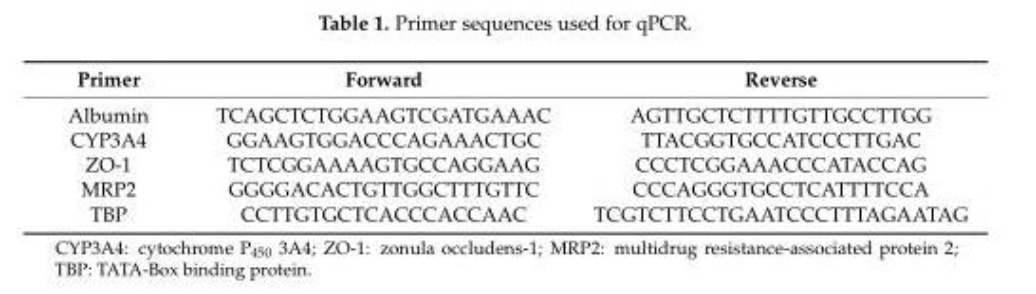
<table><thead><tr><td>Primer</td><td>Forward</td><td>Reverse</td></tr></thead><tbody><tr><td>Albumin</td><td>TCAGCTCTGGAAGTCGATGAAAC</td><td>AGTTGCTCTTTTGTTGCCTTGG</td></tr><tr><td>CYP3A4</td><td>GGAAGTGGACCCAGAAACTGC</td><td>TTACGGTGCCATCCCTTGAC</td></tr><tr><td>ZO-1</td><td>TCTCGGAAAAGTGCCAGGAAG</td><td>CCCTCGGAAACCCATACCAG</td></tr><tr><td>MRP2</td><td>GGGGACACTGTTGGCTTTGTTC</td><td>CCCAGGGTGCCTCATTTTCCA</td></tr><tr><td>TBP</td><td>CCTTGTGCTCACCCACCAAC</td><td>TCGTCTTCCTGAATCCCTTTAGAATAG</td></tr></tbody></table>